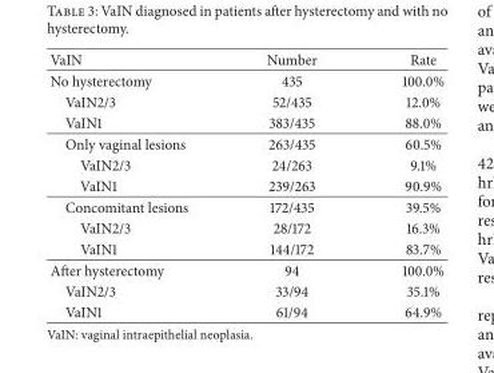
<table><thead><tr><td>VaIN</td><td>Number</td><td>Rate</td></tr></thead><tbody><tr><td>No hysterectomy</td><td>435</td><td>100.0%</td></tr><tr><td>VaIN2/3</td><td>52/435</td><td>12.0%</td></tr><tr><td>VaIN1</td><td>383/435</td><td>88.0%</td></tr><tr><td>Only vaginal lesions</td><td>263/435</td><td>60.5%</td></tr><tr><td>VaIN2/3</td><td>24/263</td><td>9.1%</td></tr><tr><td>VaIN1</td><td>239/263</td><td>90.9%</td></tr><tr><td>Concomitant lesions</td><td>172/435</td><td>39.5%</td></tr><tr><td>VaIN2/3</td><td>28/172</td><td>16.3%</td></tr><tr><td>VaIN1</td><td>144/172</td><td>83.7%</td></tr><tr><td>After hysterectomy</td><td>94</td><td>100.0%</td></tr><tr><td>VaIN2/3</td><td>33/94</td><td>35.1%</td></tr><tr><td>VaIN1</td><td>61/94</td><td>64.9%</td></tr></tbody></table>